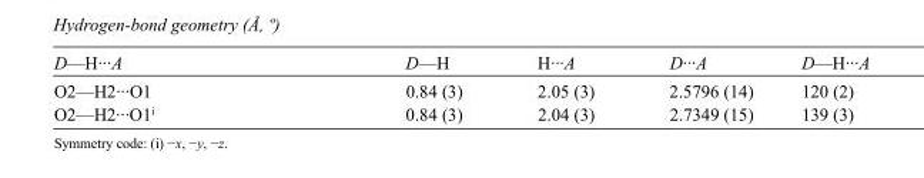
<table><tbody><tr><td>D—H···A</td><td>D—H</td><td>H···A</td><td>D···A</td><td>D—H···A</td></tr><tr><td>O2—H2···O1</td><td>0.84 (3)</td><td>2.05 (3)</td><td>2.5796 (14)</td><td>120 (2)</td></tr><tr><td>O2—H2···O1<sup>i</sup></td><td>0.84 (3)</td><td>2.04 (3)</td><td>2.7349 (15)</td><td>139 (3)</td></tr></tbody></table>